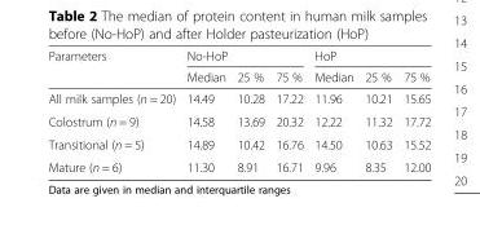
<table><thead><tr><td rowspan="2">Parameters</td><td colspan="3">No-HoP</td><td colspan="3">HoP</td></tr><tr><td>Median</td><td>25 %</td><td>75 %</td><td>Median</td><td>25 %</td><td>75 %</td></tr></thead><tbody><tr><td>All milk samples (n = 20)</td><td>14.49</td><td>10.28</td><td>17.22</td><td>11.96</td><td>10.21</td><td>15.65</td></tr><tr><td>Colostrum (n = 9)</td><td>14.58</td><td>13.69</td><td>20.32</td><td>12.22</td><td>11.32</td><td>17.72</td></tr><tr><td>Transitional (n = 5)</td><td>14.89</td><td>10.42</td><td>16.76</td><td>14.50</td><td>10.63</td><td>15.52</td></tr><tr><td>Mature (n = 6)</td><td>11.30</td><td>8.91</td><td>16.71</td><td>9.96</td><td>8.35</td><td>12.00</td></tr></tbody></table>